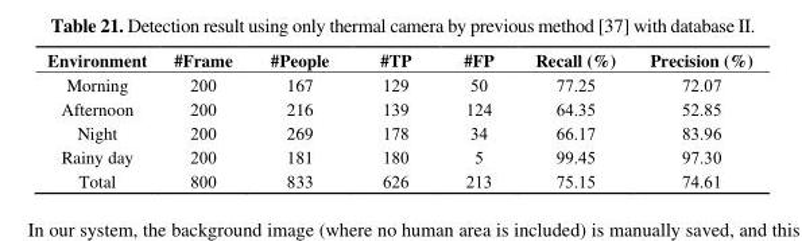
<table><thead><tr><td>Environment</td><td>#Frame</td><td>#People</td><td>#TP</td><td>#FP</td><td>Recall (%)</td><td>Precision (%)</td></tr></thead><tbody><tr><td>Morning</td><td>200</td><td>167</td><td>129</td><td>50</td><td>77.25</td><td>72.07</td></tr><tr><td>Afternoon</td><td>200</td><td>216</td><td>139</td><td>124</td><td>64.35</td><td>52.85</td></tr><tr><td>Night</td><td>200</td><td>269</td><td>178</td><td>34</td><td>66.17</td><td>83.96</td></tr><tr><td>Rainy day</td><td>200</td><td>181</td><td>180</td><td>5</td><td>99.45</td><td>97.30</td></tr><tr><td>Total</td><td>800</td><td>833</td><td>626</td><td>213</td><td>75.15</td><td>74.61</td></tr></tbody></table>